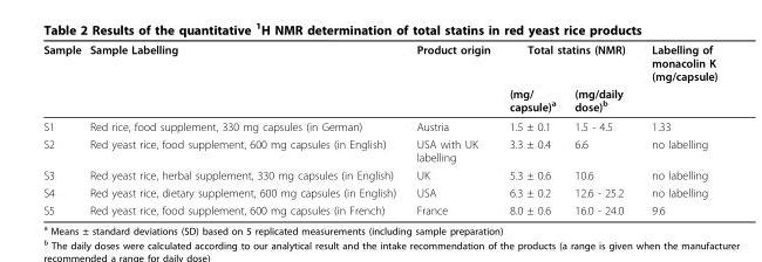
<table><thead><tr><td rowspan="2">Sample</td><td rowspan="2">Sample Labelling</td><td rowspan="2">Product origin</td><td colspan="2">Total statins (NMR)</td><td rowspan="2">Labelling of monacolin K (mg/capsule)</td></tr><tr><td>(mg/ capsule)<sup>a</sup></td><td>(mg/daily dose)<sup>b</sup></td></tr></thead><tbody><tr><td>S1</td><td>Red rice, food supplement, 330 mg capsules (in German)</td><td>Austria</td><td>1.5 ± 0.1</td><td>1.5 - 4.5</td><td>1.33</td></tr><tr><td>S2</td><td>Red yeast rice, food supplement, 600 mg capsules (in English)</td><td>USA with UK labelling</td><td>3.3 ± 0.4</td><td>6.6</td><td>no labelling</td></tr><tr><td>S3</td><td>Red yeast rice, herbal supplement, 330 mg capsules (in English)</td><td>UK</td><td>5.3 ± 0.6</td><td>10.6</td><td>no labelling</td></tr><tr><td>S4</td><td>Red yeast rice, dietary supplement, 600 mg capsules (in English)</td><td>USA</td><td>6.3 ± 0.2</td><td>12.6 - 25.2</td><td>no labelling</td></tr><tr><td>S5</td><td>Red yeast rice, food supplement, 600 mg capsules (in French)</td><td>France</td><td>8.0 ± 0.6</td><td>16.0 - 24.0</td><td>9.6</td></tr></tbody></table>